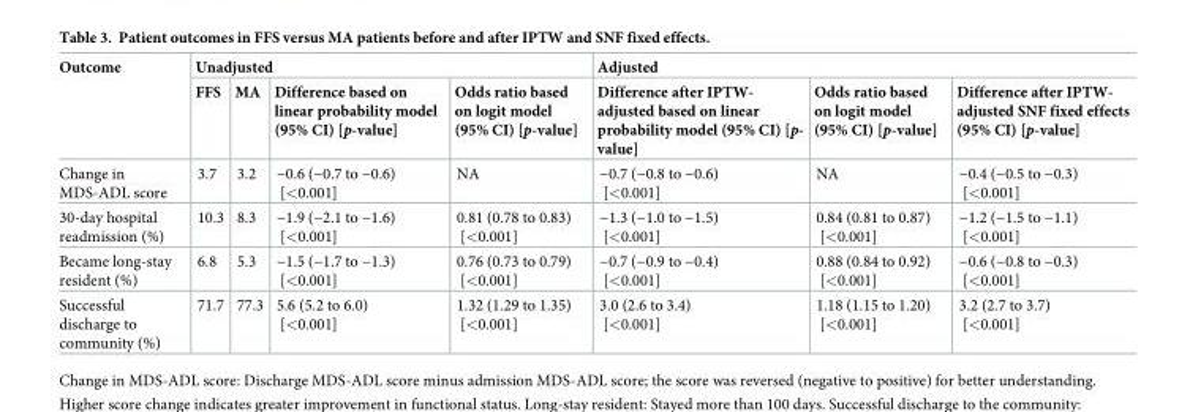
<table><thead><tr><td rowspan="2">Outcome</td><td colspan="4">Unadjusted</td><td colspan="3">Adjusted</td></tr><tr><td>FFS</td><td>MA</td><td>Difference based on linear probability model (95% CI) [p-value]</td><td>Odds ratio based on logit model (95% CI) [p-value]</td><td>Difference after IPTW- adjusted based on linear probability model (95% CI) [p- value]</td><td>Odds ratio based on logit model (95% CI) [p-value]</td><td>Difference after IPTW- adjusted SNF fixed effects (95% CI) [p-value]</td></tr></thead><tbody><tr><td>Change in MDS-ADL score</td><td>3.7</td><td>3.2</td><td>−0.6 (−0.7 to −0.6) [&lt;0.001]</td><td>NA</td><td>−0.7 (−0.8 to −0.6) [&lt;0.001]</td><td>NA</td><td>−0.4 (−0.5 to −0.3) [&lt;0.001]</td></tr><tr><td>30-day hospital readmission (%)</td><td>10.3</td><td>8.3</td><td>−1.9 (−2.1 to −1.6) [&lt;0.001]</td><td>0.81 (0.78 to 0.83) [&lt;0.001]</td><td>−1.3 (−1.0 to −1.5) [&lt;0.001]</td><td>0.84 (0.81 to 0.87) [&lt;0.001]</td><td>−1.2 (−1.5 to −1.1) [&lt;0.001]</td></tr><tr><td>Became long-stay resident (%)</td><td>6.8</td><td>5.3</td><td>−1.5 (−1.7 to −1.3) [&lt;0.001]</td><td>0.76 (0.73 to 0.79) [&lt;0.001]</td><td>−0.7 (−0.9 to −0.4) [&lt;0.001]</td><td>0.88 (0.84 to 0.92) [&lt;0.001]</td><td>−0.6 (−0.8 to −0.3) [&lt;0.001]</td></tr><tr><td>Successful discharge to community (%)</td><td>71.7</td><td>77.3</td><td>5.6 (5.2 to 6.0) [&lt;0.001]</td><td>1.32 (1.29 to 1.35) [&lt;0.001]</td><td>3.0 (2.6 to 3.4) [&lt;0.001]</td><td>1.18 (1.15 to 1.20) [&lt;0.001]</td><td>3.2 (2.7 to 3.7) [&lt;0.001]</td></tr></tbody></table>